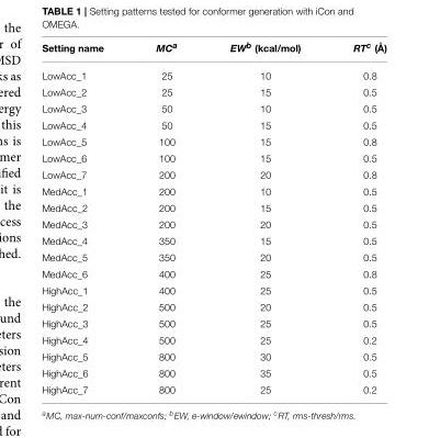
<table><thead><tr><td>Setting name</td><td>MC<sup>a</sup></td><td>EW<sup>b</sup> (kcal/mol)</td><td>RT<sup>c</sup> (Å)</td></tr></thead><tbody><tr><td>LowAcc_1</td><td>25</td><td>10</td><td>0.8</td></tr><tr><td>LowAcc_2</td><td>25</td><td>15</td><td>0.5</td></tr><tr><td>LowAcc_3</td><td>50</td><td>10</td><td>0.5</td></tr><tr><td>LowAcc_4</td><td>50</td><td>15</td><td>0.5</td></tr><tr><td>LowAcc_5</td><td>100</td><td>15</td><td>0.8</td></tr><tr><td>LowAcc_6</td><td>100</td><td>15</td><td>0.5</td></tr><tr><td>LowAcc_7</td><td>200</td><td>20</td><td>0.8</td></tr><tr><td>MedAcc_1</td><td>200</td><td>10</td><td>0.5</td></tr><tr><td>MedAcc_2</td><td>200</td><td>15</td><td>0.5</td></tr><tr><td>MedAcc_3</td><td>200</td><td>20</td><td>0.5</td></tr><tr><td>MedAcc_4</td><td>350</td><td>15</td><td>0.5</td></tr><tr><td>MedAcc_5</td><td>350</td><td>20</td><td>0.5</td></tr><tr><td>MedAcc_6</td><td>400</td><td>25</td><td>0.8</td></tr><tr><td>HighAcc_1</td><td>400</td><td>25</td><td>0.5</td></tr><tr><td>HighAcc_2</td><td>500</td><td>20</td><td>0.5</td></tr><tr><td>HighAcc_3</td><td>500</td><td>25</td><td>0.5</td></tr><tr><td>HighAcc_4</td><td>500</td><td>25</td><td>0.2</td></tr><tr><td>HighAcc_5</td><td>800</td><td>30</td><td>0.5</td></tr><tr><td>HighAcc_6</td><td>800</td><td>35</td><td>0.5</td></tr><tr><td>HighAcc_7</td><td>800</td><td>25</td><td>0.2</td></tr></tbody></table>